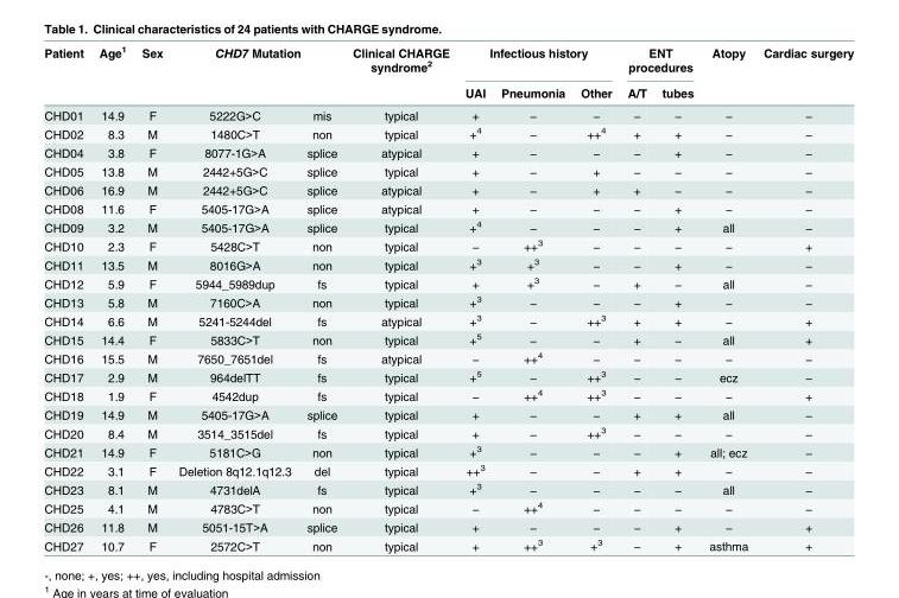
<table><thead><tr><td rowspan="2">Patient</td><td rowspan="2">Age<sup>1</sup></td><td rowspan="2">Sex</td><td colspan="2">CHD7 Mutation</td><td rowspan="2">Clinical CHARGE syndrome<sup>2</sup></td><td colspan="3">Infectious history</td><td colspan="2">ENT procedures</td><td rowspan="2">Atopy</td><td rowspan="2">Cardiac surgery</td></tr><tr><td></td><td></td><td>UAI</td><td>Pneumonia</td><td>Other</td><td>A/T</td><td>tubes</td></tr></thead><tbody><tr><td>CHD01</td><td>14.9</td><td>F</td><td>5222G&gt;C</td><td>mis</td><td>typical</td><td>+</td><td>−</td><td>−</td><td>−</td><td>−</td><td>−</td><td>−</td></tr><tr><td>CHD02</td><td>8.3</td><td>M</td><td>1480C&gt;T</td><td>non</td><td>typical</td><td>+<sup>4</sup></td><td>−</td><td>++<sup>4</sup></td><td>+</td><td>+</td><td>−</td><td>−</td></tr><tr><td>CHD04</td><td>3.8</td><td>F</td><td>8077-1G&gt;A</td><td>splice</td><td>atypical</td><td>+</td><td>−</td><td>−</td><td>−</td><td>+</td><td>−</td><td>−</td></tr><tr><td>CHD05</td><td>13.8</td><td>M</td><td>2442+5G&gt;C</td><td>splice</td><td>typical</td><td>+</td><td>−</td><td>+</td><td>−</td><td>−</td><td>−</td><td>−</td></tr><tr><td>CHD06</td><td>16.9</td><td>M</td><td>2442+5G&gt;C</td><td>splice</td><td>atypical</td><td>+</td><td>−</td><td>+</td><td>+</td><td>−</td><td>−</td><td>−</td></tr><tr><td>CHD08</td><td>11.6</td><td>F</td><td>5405-17G&gt;A</td><td>splice</td><td>atypical</td><td>+</td><td>−</td><td>−</td><td>−</td><td>+</td><td>−</td><td>−</td></tr><tr><td>CHD09</td><td>3.2</td><td>M</td><td>5405-17G&gt;A</td><td>splice</td><td>typical</td><td>+<sup>4</sup></td><td>−</td><td>−</td><td>−</td><td>+</td><td>all</td><td>−</td></tr><tr><td>CHD10</td><td>2.3</td><td>F</td><td>5428C&gt;T</td><td>non</td><td>typical</td><td>−</td><td>++<sup>3</sup></td><td>−</td><td>−</td><td>−</td><td>−</td><td>+</td></tr><tr><td>CHD11</td><td>13.5</td><td>M</td><td>8016G&gt;A</td><td>non</td><td>typical</td><td>+<sup>3</sup></td><td>+<sup>3</sup></td><td>−</td><td>−</td><td>+</td><td>−</td><td>−</td></tr><tr><td>CHD12</td><td>5.9</td><td>F</td><td>5944_5989dup</td><td>fs</td><td>typical</td><td>+</td><td>+<sup>3</sup></td><td>−</td><td>+</td><td>−</td><td>all</td><td>−</td></tr><tr><td>CHD13</td><td>5.8</td><td>M</td><td>7160C&gt;A</td><td>non</td><td>typical</td><td>+<sup>3</sup></td><td>−</td><td>−</td><td>−</td><td>+</td><td>−</td><td>−</td></tr><tr><td>CHD14</td><td>6.6</td><td>M</td><td>5241-5244del</td><td>fs</td><td>atypical</td><td>+<sup>3</sup></td><td>−</td><td>++<sup>3</sup></td><td>+</td><td>+</td><td>−</td><td>+</td></tr><tr><td>CHD15</td><td>14.4</td><td>F</td><td>5833C&gt;T</td><td>non</td><td>typical</td><td>+<sup>5</sup></td><td>−</td><td>−</td><td>+</td><td>−</td><td>all</td><td>+</td></tr><tr><td>CHD16</td><td>15.5</td><td>M</td><td>7650_7651del</td><td>fs</td><td>atypical</td><td>−</td><td>++<sup>4</sup></td><td>−</td><td>−</td><td>−</td><td>−</td><td>−</td></tr><tr><td>CHD17</td><td>2.9</td><td>M</td><td>964delTT</td><td>fs</td><td>typical</td><td>+<sup>5</sup></td><td>−</td><td>++<sup>3</sup></td><td>−</td><td>−</td><td>ecz</td><td>−</td></tr><tr><td>CHD18</td><td>1.9</td><td>F</td><td>4542dup</td><td>fs</td><td>typical</td><td>−</td><td>++<sup>4</sup></td><td>++<sup>3</sup></td><td>−</td><td>−</td><td>−</td><td>+</td></tr><tr><td>CHD19</td><td>14.9</td><td>M</td><td>5405-17G&gt;A</td><td>splice</td><td>typical</td><td>+</td><td>−</td><td>−</td><td>+</td><td>+</td><td>all</td><td>−</td></tr><tr><td>CHD20</td><td>8.4</td><td>M</td><td>3514_3515del</td><td>fs</td><td>typical</td><td>+</td><td>−</td><td>++<sup>3</sup></td><td>−</td><td>−</td><td>−</td><td>−</td></tr><tr><td>CHD21</td><td>14.9</td><td>F</td><td>5181C&gt;G</td><td>non</td><td>typical</td><td>+<sup>3</sup></td><td>−</td><td>−</td><td>−</td><td>+</td><td>all; ecz</td><td>−</td></tr><tr><td>CHD22</td><td>3.1</td><td>F</td><td>Deletion 8q12.1q12.3</td><td>del</td><td>typical</td><td>++<sup>3</sup></td><td>−</td><td>−</td><td>+</td><td>+</td><td>−</td><td>−</td></tr><tr><td>CHD23</td><td>8.1</td><td>M</td><td>4731delA</td><td>fs</td><td>typical</td><td>+<sup>3</sup></td><td>−</td><td>−</td><td>−</td><td>−</td><td>all</td><td>−</td></tr><tr><td>CHD25</td><td>4.1</td><td>M</td><td>4783C&gt;T</td><td>non</td><td>typical</td><td>−</td><td>++<sup>4</sup></td><td>−</td><td>−</td><td>−</td><td>−</td><td>−</td></tr><tr><td>CHD26</td><td>11.8</td><td>M</td><td>5051-15T&gt;A</td><td>splice</td><td>typical</td><td>+</td><td>−</td><td>−</td><td>−</td><td>+</td><td>−</td><td>+</td></tr><tr><td>CHD27</td><td>10.7</td><td>F</td><td>2572C&gt;T</td><td>non</td><td>typical</td><td>+</td><td>++<sup>3</sup></td><td>+<sup>3</sup></td><td>−</td><td>+</td><td>asthma</td><td>+</td></tr></tbody></table>